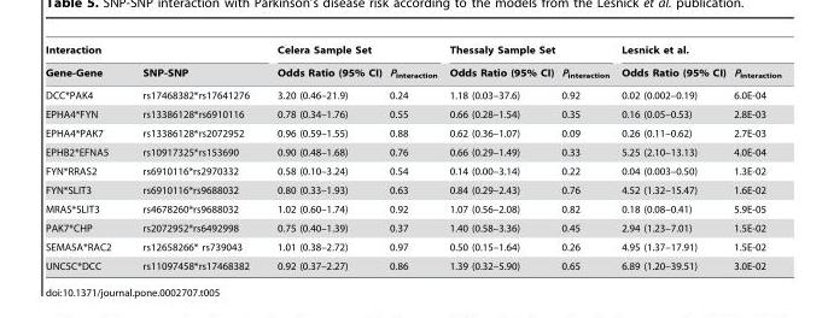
<table><thead><tr><td colspan="2">Interaction</td><td colspan="2">Celera Sample Set</td><td colspan="2">Thessaly Sample Set</td><td colspan="2">Lesnick et al.</td></tr><tr><td>Gene-Gene</td><td>SNP-SNP</td><td>Odds Ratio (95% CI)</td><td>P<sub>interaction</sub></td><td>Odds Ratio (95% CI)</td><td>P<sub>interaction</sub></td><td>Odds Ratio (95% CI)</td><td>P<sub>interaction</sub></td></tr></thead><tbody><tr><td>DCC*PAK4</td><td>rs17468382*rs17641276</td><td>3.20 (0.46–21.9)</td><td>0.24</td><td>1.18 (0.03–37.6)</td><td>0.92</td><td>0.02 (0.002–0.19)</td><td>6.0E-04</td></tr><tr><td>EPHA4*FYN</td><td>rs13386128*rs6910116</td><td>0.78 (0.34–1.76)</td><td>0.55</td><td>0.66 (0.28–1.54)</td><td>0.35</td><td>0.16 (0.05–0.53)</td><td>2.8E-03</td></tr><tr><td>EPHA4*PAK7</td><td>rs13386128*rs2072952</td><td>0.96 (0.59–1.55)</td><td>0.88</td><td>0.62 (0.36–1.07)</td><td>0.09</td><td>0.26 (0.11–0.62)</td><td>2.7E-03</td></tr><tr><td>EPHB2*EFNA5</td><td>rs10917325*rs153690</td><td>0.90 (0.48–1.68)</td><td>0.76</td><td>0.66 (0.29–1.49)</td><td>0.33</td><td>5.25 (2.10–13.13)</td><td>4.0E-04</td></tr><tr><td>FYN*RRAS2</td><td>rs6910116*rs2970332</td><td>0.58 (0.10–3.24)</td><td>0.54</td><td>0.14 (0.00–3.14)</td><td>0.22</td><td>0.04 (0.003–0.50)</td><td>1.3E-02</td></tr><tr><td>FYN*SLIT3</td><td>rs6910116*rs9688032</td><td>0.80 (0.33–1.93)</td><td>0.63</td><td>0.84 (0.29–2.43)</td><td>0.76</td><td>4.52 (1.32–15.47)</td><td>1.6E-02</td></tr><tr><td>MRAS*SLIT3</td><td>rs4678260*rs9688032</td><td>1.02 (0.60–1.74)</td><td>0.92</td><td>1.07 (0.56–2.08)</td><td>0.82</td><td>0.18 (0.08–0.41)</td><td>5.9E-05</td></tr><tr><td>PAK7*CHP</td><td>rs2072952*rs6492998</td><td>0.75 (0.40–1.39)</td><td>0.37</td><td>1.40 (0.58–3.36)</td><td>0.45</td><td>2.94 (1.23–7.01)</td><td>1.5E-02</td></tr><tr><td>SEMA5A*RAC2</td><td>rs12658266* rs739043</td><td>1.01 (0.38–2.72)</td><td>0.97</td><td>0.50 (0.15–1.64)</td><td>0.26</td><td>4.95 (1.37–17.91)</td><td>1.5E-02</td></tr><tr><td>UNC5C*DCC</td><td>rs11097458*rs17468382</td><td>0.92 (0.37–2.27)</td><td>0.86</td><td>1.39 (0.32–5.90)</td><td>0.65</td><td>6.89 (1.20–39.51)</td><td>3.0E-02</td></tr></tbody></table>